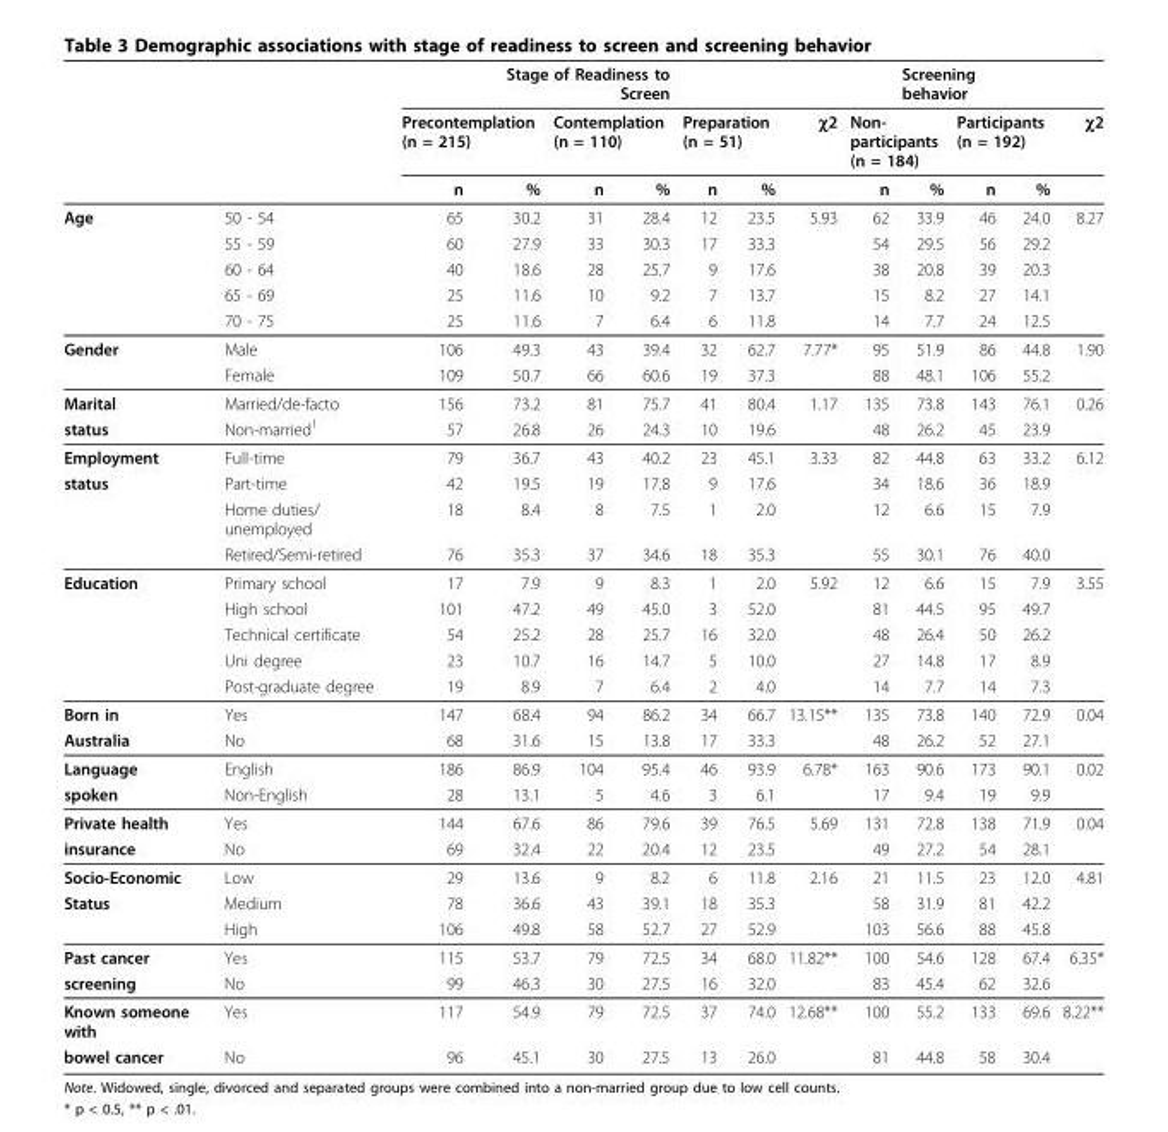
<table><thead><tr><td rowspan="3"></td><td rowspan="3"></td><td></td><td colspan="3">Stage of Readiness to Screen</td><td></td><td></td><td rowspan="3">χ2</td><td></td><td colspan="2">Screening behavior</td><td></td><td rowspan="3">χ2</td></tr><tr><td colspan="2">Precontemplation (n = 215)</td><td colspan="2">Contemplation (n = 110)</td><td colspan="2">Preparation (n = 51)</td><td colspan="2">Non- participants (n = 184)</td><td colspan="2">Participants (n = 192)</td></tr><tr><td>n</td><td>%</td><td>n</td><td>%</td><td>n</td><td>%</td><td>n</td><td>%</td><td>n</td><td>%</td></tr></thead><tbody><tr><td rowspan="5">Age</td><td>50 - 54</td><td>65</td><td>30.2</td><td>31</td><td>28.4</td><td>12</td><td>23.5</td><td>5.93</td><td>62</td><td>33.9</td><td>46</td><td>24.0</td><td>8.27</td></tr><tr><td>55 - 59</td><td>60</td><td>27.9</td><td>33</td><td>30.3</td><td>17</td><td>33.3</td><td></td><td>54</td><td>29.5</td><td>56</td><td>29.2</td><td></td></tr><tr><td>60 - 64</td><td>40</td><td>18.6</td><td>28</td><td>25.7</td><td>9</td><td>17.6</td><td></td><td>38</td><td>20.8</td><td>39</td><td>20.3</td><td></td></tr><tr><td>65 - 69</td><td>25</td><td>11.6</td><td>10</td><td>9.2</td><td>7</td><td>13.7</td><td></td><td>15</td><td>8.2</td><td>27</td><td>14.1</td><td></td></tr><tr><td>70 - 75</td><td>25</td><td>11.6</td><td>7</td><td>6.4</td><td>6</td><td>11.8</td><td></td><td>14</td><td>7.7</td><td>24</td><td>12.5</td><td></td></tr><tr><td rowspan="2">Gender</td><td>Male</td><td>106</td><td>49.3</td><td>43</td><td>39.4</td><td>32</td><td>62.7</td><td>7.77*</td><td>95</td><td>51.9</td><td>86</td><td>44.8</td><td>1.90</td></tr><tr><td>Female</td><td>109</td><td>50.7</td><td>66</td><td>60.6</td><td>19</td><td>37.3</td><td></td><td>88</td><td>48.1</td><td>106</td><td>55.2</td><td></td></tr><tr><td>Marital</td><td>Married/de-facto</td><td>156</td><td>73.2</td><td>81</td><td>75.7</td><td>41</td><td>80.4</td><td>1.17</td><td>135</td><td>73.8</td><td>143</td><td>76.1</td><td>0.26</td></tr><tr><td>status</td><td>Non-married<sup>1</sup></td><td>57</td><td>26.8</td><td>26</td><td>24.3</td><td>10</td><td>19.6</td><td></td><td>48</td><td>26.2</td><td>45</td><td>23.9</td><td></td></tr><tr><td>Employment</td><td>Full-time</td><td>79</td><td>36.7</td><td>43</td><td>40.2</td><td>23</td><td>45.1</td><td>3.33</td><td>82</td><td>44.8</td><td>63</td><td>33.2</td><td>6.12</td></tr><tr><td rowspan="3">status</td><td>Part-time</td><td>42</td><td>19.5</td><td>19</td><td>17.8</td><td>9</td><td>17.6</td><td></td><td>34</td><td>18.6</td><td>36</td><td>18.9</td><td></td></tr><tr><td>Home duties/ unemployed</td><td>18</td><td>8.4</td><td>8</td><td>7.5</td><td>1</td><td>2.0</td><td></td><td>12</td><td>6.6</td><td>15</td><td>7.9</td><td></td></tr><tr><td>Retired/Semi-retired</td><td>76</td><td>35.3</td><td>37</td><td>34.6</td><td>18</td><td>35.3</td><td></td><td>55</td><td>30.1</td><td>76</td><td>40.0</td><td></td></tr><tr><td rowspan="5">Education</td><td>Primary school</td><td>17</td><td>7.9</td><td>9</td><td>8.3</td><td>1</td><td>2.0</td><td>5.92</td><td>12</td><td>6.6</td><td>15</td><td>7.9</td><td>3.55</td></tr><tr><td>High school</td><td>101</td><td>47.2</td><td>49</td><td>45.0</td><td>3</td><td>52.0</td><td></td><td>81</td><td>44.5</td><td>95</td><td>49.7</td><td></td></tr><tr><td>Technical certificate</td><td>54</td><td>25.2</td><td>28</td><td>25.7</td><td>16</td><td>32.0</td><td></td><td>48</td><td>26.4</td><td>50</td><td>26.2</td><td></td></tr><tr><td>Uni degree</td><td>23</td><td>10.7</td><td>16</td><td>14.7</td><td>5</td><td>10.0</td><td></td><td>27</td><td>14.8</td><td>17</td><td>8.9</td><td></td></tr><tr><td>Post-graduate degree</td><td>19</td><td>8.9</td><td>7</td><td>6.4</td><td>2</td><td>4.0</td><td></td><td>14</td><td>7.7</td><td>14</td><td>7.3</td><td></td></tr><tr><td>Born in</td><td>Yes</td><td>147</td><td>68.4</td><td>94</td><td>86.2</td><td>34</td><td>66.7</td><td>13.15**</td><td>135</td><td>73.8</td><td>140</td><td>72.9</td><td>0.04</td></tr><tr><td>Australia</td><td>No</td><td>68</td><td>31.6</td><td>15</td><td>13.8</td><td>17</td><td>33.3</td><td></td><td>48</td><td>26.2</td><td>52</td><td>27.1</td><td></td></tr><tr><td>Language</td><td>English</td><td>186</td><td>86.9</td><td>104</td><td>95.4</td><td>46</td><td>93.9</td><td>6.78*</td><td>163</td><td>90.6</td><td>173</td><td>90.1</td><td>0.02</td></tr><tr><td>spoken</td><td>Non-English</td><td>28</td><td>13.1</td><td>5</td><td>4.6</td><td>3</td><td>6.1</td><td></td><td>17</td><td>9.4</td><td>19</td><td>9.9</td><td></td></tr><tr><td>Private health</td><td>Yes</td><td>144</td><td>67.6</td><td>86</td><td>79.6</td><td>39</td><td>76.5</td><td>5.69</td><td>131</td><td>72.8</td><td>138</td><td>71.9</td><td>0.04</td></tr><tr><td>insurance</td><td>No</td><td>69</td><td>32.4</td><td>22</td><td>20.4</td><td>12</td><td>23.5</td><td></td><td>49</td><td>27.2</td><td>54</td><td>28.1</td><td></td></tr><tr><td>Socio-Economic</td><td>Low</td><td>29</td><td>13.6</td><td>9</td><td>8.2</td><td>6</td><td>11.8</td><td>2.16</td><td>21</td><td>11.5</td><td>23</td><td>12.0</td><td>4.81</td></tr><tr><td rowspan="2">Status</td><td>Medium</td><td>78</td><td>36.6</td><td>43</td><td>39.1</td><td>18</td><td>35.3</td><td></td><td>58</td><td>31.9</td><td>81</td><td>42.2</td><td></td></tr><tr><td>High</td><td>106</td><td>49.8</td><td>58</td><td>52.7</td><td>27</td><td>52.9</td><td></td><td>103</td><td>56.6</td><td>88</td><td>45.8</td><td></td></tr><tr><td>Past cancer</td><td>Yes</td><td>115</td><td>53.7</td><td>79</td><td>72.5</td><td>34</td><td>68.0</td><td>11.82**</td><td>100</td><td>54.6</td><td>128</td><td>67.4</td><td>6.35*</td></tr><tr><td>screening</td><td>No</td><td>99</td><td>46.3</td><td>30</td><td>27.5</td><td>16</td><td>32.0</td><td></td><td>83</td><td>45.4</td><td>62</td><td>32.6</td><td></td></tr><tr><td>Known someone with</td><td>Yes</td><td>117</td><td>54.9</td><td>79</td><td>72.5</td><td>37</td><td>74.0</td><td>12.68**</td><td>100</td><td>55.2</td><td>133</td><td>69.6</td><td>8.22**</td></tr><tr><td>bowel cancer</td><td>No</td><td>96</td><td>45.1</td><td>30</td><td>27.5</td><td>13</td><td>26.0</td><td></td><td>81</td><td>44.8</td><td>58</td><td>30.4</td><td></td></tr></tbody></table>